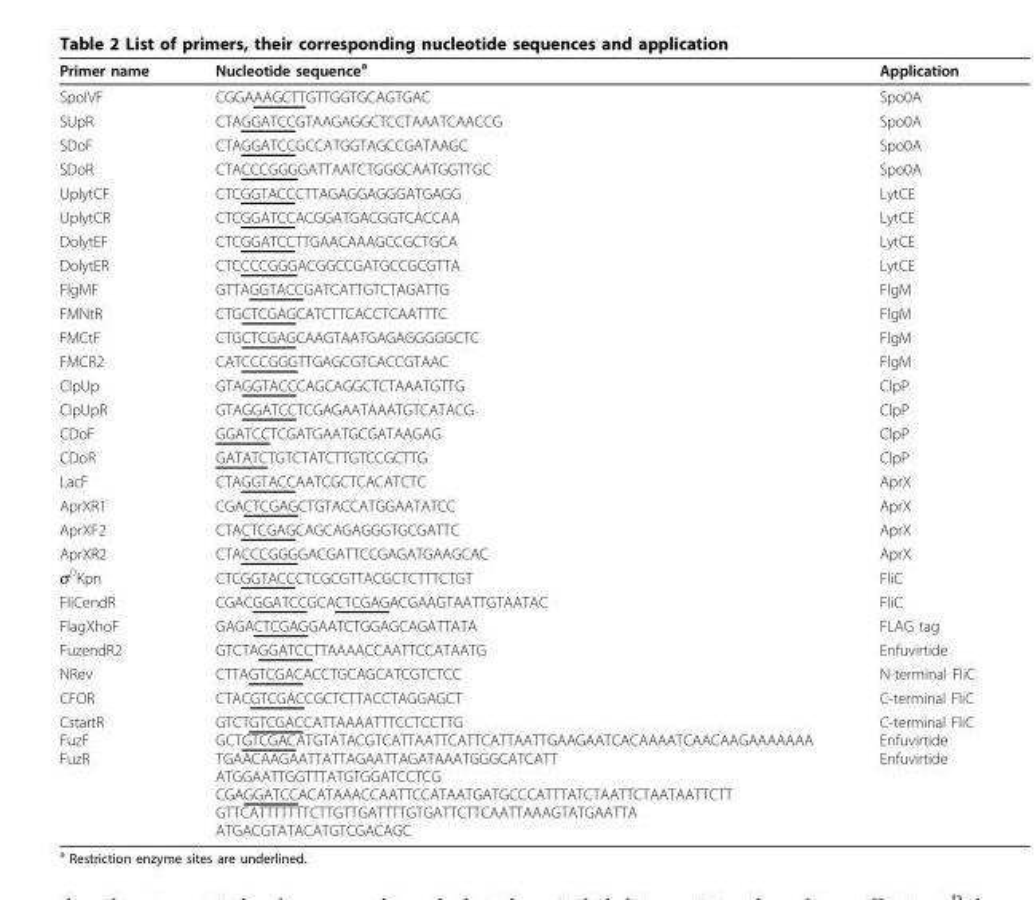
<table><thead><tr><td>Primer name</td><td>Nucleotide sequence<sup>a</sup></td><td>Application</td></tr></thead><tbody><tr><td>SpoIVF</td><td>CGGAAAGCTTGTTGGTGCAGTGAC</td><td>Spo0A</td></tr><tr><td>SUpR</td><td>CTAGGATCCGTAAGAGGCTCCTAAATCAACCG</td><td>Spo0A</td></tr><tr><td>SDoF</td><td>CTAGGATCCGCCATGGTAGCCGATAAGC</td><td>Spo0A</td></tr><tr><td>SDoR</td><td>CTACCCGGGGATTAATCTGGGCAATGGTTGC</td><td>Spo0A</td></tr><tr><td>UplytCF</td><td>CTCGGTACCCTTAGAGGAGGGATGAGG</td><td>LytCE</td></tr><tr><td>UplytCR</td><td>CTCGGATCCACGGATGACGGTCACCAA</td><td>LytCE</td></tr><tr><td>DolytEF</td><td>CTCGGATCCTTGAACAAAGCCGCTGCA</td><td>LytCE</td></tr><tr><td>DolytER</td><td>CTCCCCGGGACGGCCGATGCCGCGTTA</td><td>LytCE</td></tr><tr><td>FlgMF</td><td>GTTAGGTACCGATCATTGTCTAGATTG</td><td>FlgM</td></tr><tr><td>FMNtR</td><td>CTGCTCGAGCATCTTCACCTCAATTTC</td><td>FlgM</td></tr><tr><td>FMCtF</td><td>CTGCTCGAGCAAGTAATGAGAGGGGGCTC</td><td>FlgM</td></tr><tr><td>FMCR2</td><td>CATCCCGGGTTGAGCGTCACCGTAAC</td><td>FlgM</td></tr><tr><td>ClpUp</td><td>GTAGGTACCCAGCAGGCTCTAAATGTTG</td><td>ClpP</td></tr><tr><td>ClpUpR</td><td>GTAGGATCCTCGAGAATAAATGTCATACG</td><td>ClpP</td></tr><tr><td>CDoF</td><td>GGATCCTCGATGAATGCGATAAGAG</td><td>ClpP</td></tr><tr><td>CDoR</td><td>GATATCTGTCTATCTTGTCCGCTTG</td><td>ClpP</td></tr><tr><td>LacF</td><td>CTAGGTACCAATCGCTCACATCTC</td><td>AprX</td></tr><tr><td>AprXR1</td><td>CGACTCGAGCTGTACCATGGAATATCC</td><td>AprX</td></tr><tr><td>AprXF2</td><td>CTACTCGAGCAGCAGAGGGTGCGATTC</td><td>AprX</td></tr><tr><td>AprXR2</td><td>CTACCCGGGGACGATTCCGAGATGAAGCAC</td><td>AprX</td></tr><tr><td>σ<sup>D</sup>Kpn</td><td>CTCGGTACCCTCGCGTTACGCTCTTTCTGT</td><td>FliC</td></tr><tr><td>FliCendR</td><td>CGACGGATCCGCACTCGAGACGAAGTAATTGTAATAC</td><td>FliC</td></tr><tr><td>FlagXhoF</td><td>GAGACTCGAGGAATCTGGAGCAGATTATA</td><td>FLAG tag</td></tr><tr><td>FuzendR2</td><td>GTCTAGGATCCTTAAAACCAATTCCATAATG</td><td>Enfuvirtide</td></tr><tr><td>NRev</td><td>CTTAGTCGACACCTGCAGCATCGTCTCC</td><td>N-terminal FliC</td></tr><tr><td>CFOR</td><td>CTACGTCGACCGCTCTTACCTAGGAGCT</td><td>C-terminal FliC</td></tr><tr><td>CstartR FuzF FuzR</td><td>GTCTGTCGACCATTAAAATTTCCTCCTTG GCTGTCGACATGTATACGTCATTAATTCATTCATTAATTGAAGAATCACAAAATCAACAAGAAAAAAA TGAACAAGAATTATTAGAATTAGATAAATGGGCATCATT ATGGAATTGGTTTATGTGGATCCTCG CGAGGATCCACATAAACCAATTCCATAATGATGCCCATTTATCTAATTCTAATAATTCTT GTTCATTTTTTTCTTGTTGATTTTGTGATTCTTCAATTAAAGTATGAATTA ATGACGTATACATGTCGACAGC</td><td>C-terminal FliC Enfuvirtide Enfuvirtide</td></tr></tbody></table>